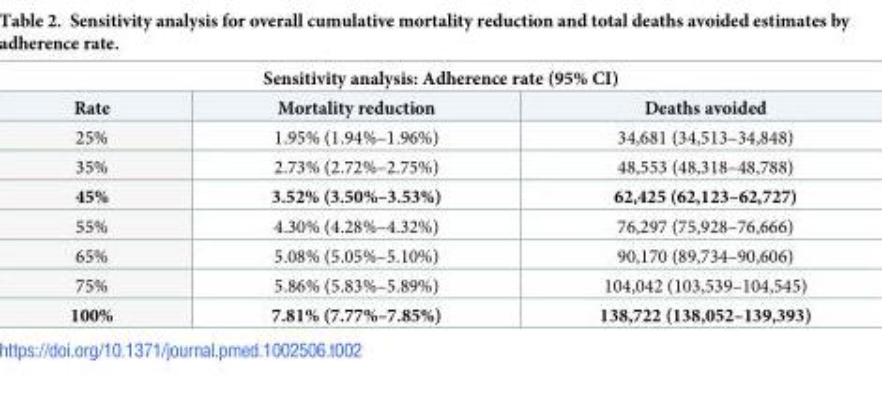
<table><thead><tr><td colspan="3">Sensitivity analysis: Adherence rate (95% CI)</td></tr><tr><td>Rate</td><td>Mortality reduction</td><td>Deaths avoided</td></tr></thead><tbody><tr><td>25%</td><td>1.95% (1.94%–1.96%)</td><td>34,681 (34,513–34,848)</td></tr><tr><td>35%</td><td>2.73% (2.72%–2.75%)</td><td>48,553 (48,318–48,788)</td></tr><tr><td>45%</td><td>3.52% (3.50%–3.53%)</td><td>62,425 (62,123–62,727)</td></tr><tr><td>55%</td><td>4.30% (4.28%–4.32%)</td><td>76,297 (75,928–76,666)</td></tr><tr><td>65%</td><td>5.08% (5.05%–5.10%)</td><td>90,170 (89,734–90,606)</td></tr><tr><td>75%</td><td>5.86% (5.83%–5.89%)</td><td>104,042 (103,539–104,545)</td></tr><tr><td>100%</td><td>7.81% (7.77%–7.85%)</td><td>138,722 (138,052–139,393)</td></tr></tbody></table>